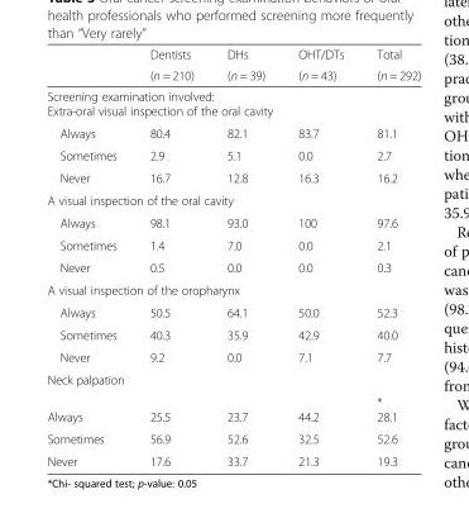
<table><thead><tr><td rowspan="2"></td><td rowspan="2">Dentists (n = 210)</td><td rowspan="2">DHs (n = 39)</td><td rowspan="2">OHT/DTs (n = 43)</td><td rowspan="2">Total (n = 292)</td></tr><tr></tr></thead><tbody><tr><td colspan="5">Screening examination involved: Extra-oral visual inspection of the oral cavity</td></tr><tr><td>Always</td><td>80.4</td><td>82.1</td><td>83.7</td><td>81.1</td></tr><tr><td>Sometimes</td><td>2.9</td><td>5.1</td><td>0.0</td><td>2.7</td></tr><tr><td>Never</td><td>16.7</td><td>12.8</td><td>16.3</td><td>16.2</td></tr><tr><td colspan="5">A visual inspection of the oral cavity</td></tr><tr><td>Always</td><td>98.1</td><td>93.0</td><td>100</td><td>97.6</td></tr><tr><td>Sometimes</td><td>1.4</td><td>7.0</td><td>0.0</td><td>2.1</td></tr><tr><td>Never</td><td>0.5</td><td>0.0</td><td>0.0</td><td>0.3</td></tr><tr><td colspan="5">A visual inspection of the oropharynx</td></tr><tr><td>Always</td><td>50.5</td><td>64.1</td><td>50.0</td><td>52.3</td></tr><tr><td>Sometimes</td><td>40.3</td><td>35.9</td><td>42.9</td><td>40.0</td></tr><tr><td>Never</td><td>9.2</td><td>0.0</td><td>7.1</td><td>7.7</td></tr><tr><td colspan="5">Neck palpation</td></tr><tr><td>Always</td><td>25.5</td><td>23.7</td><td>44.2</td><td>* 28.1</td></tr><tr><td>Sometimes</td><td>56.9</td><td>52.6</td><td>32.5</td><td>52.6</td></tr><tr><td>Never</td><td>17.6</td><td>33.7</td><td>21.3</td><td>19.3</td></tr></tbody></table>